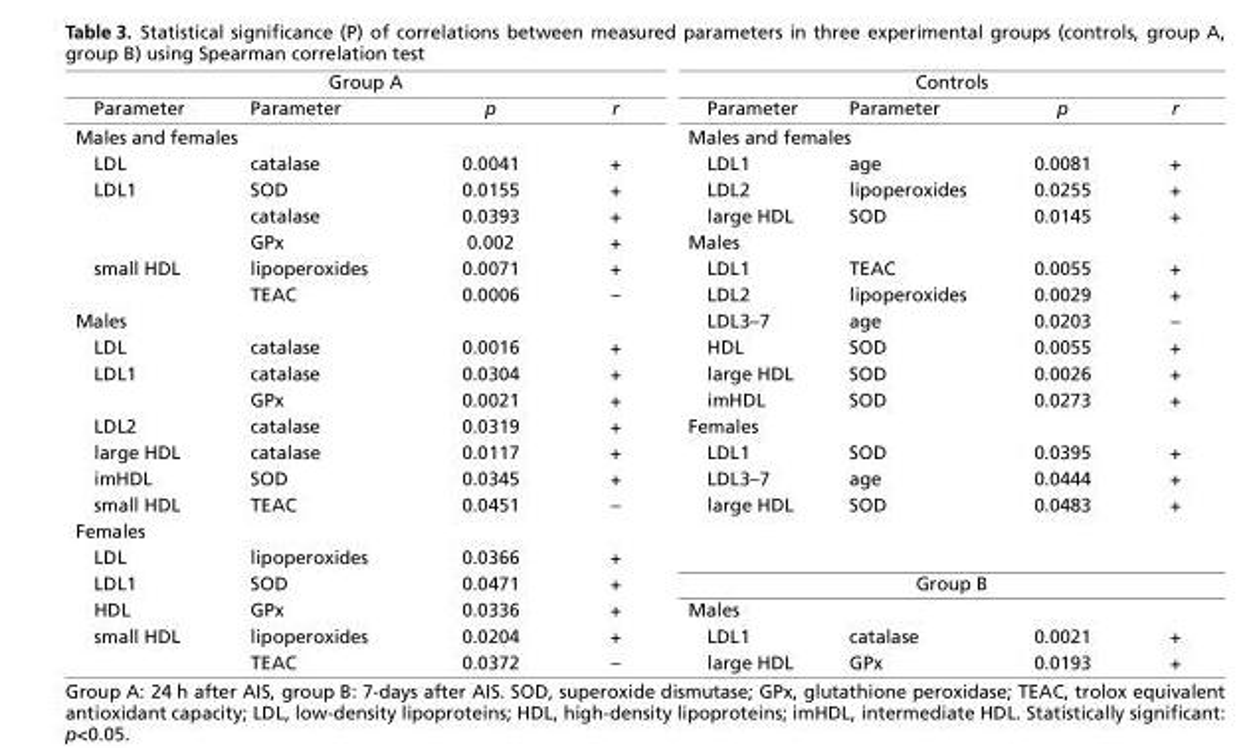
<table><tbody><tr><td colspan="4">Group A</td><td colspan="4">Controls</td></tr><tr><td>Parameter</td><td>Parameter</td><td>p</td><td>r</td><td>Parameter</td><td>Parameter</td><td>p</td><td>r</td></tr><tr><td colspan="4">Males and females</td><td colspan="4">Males and females</td></tr><tr><td>LDL</td><td>catalase</td><td>0.0041</td><td>+</td><td>LDL1</td><td>age</td><td>0.0081</td><td>+</td></tr><tr><td rowspan="3">LDL1</td><td>SOD</td><td>0.0155</td><td>+</td><td>LDL2</td><td>lipoperoxides</td><td>0.0255</td><td>+</td></tr><tr><td>catalase</td><td>0.0393</td><td>+</td><td>large HDL</td><td>SOD</td><td>0.0145</td><td>+</td></tr><tr><td>GPx</td><td>0.002</td><td>+</td><td colspan="4">Males</td></tr><tr><td rowspan="2">small HDL</td><td>lipoperoxides</td><td>0.0071</td><td>+</td><td>LDL1</td><td>TEAC</td><td>0.0055</td><td>+</td></tr><tr><td>TEAC</td><td>0.0006</td><td>–</td><td>LDL2</td><td>lipoperoxides</td><td>0.0029</td><td>+</td></tr><tr><td colspan="4">Males</td><td>LDL3–7</td><td>age</td><td>0.0203</td><td>–</td></tr><tr><td>LDL</td><td>catalase</td><td>0.0016</td><td>+</td><td>HDL</td><td>SOD</td><td>0.0055</td><td>+</td></tr><tr><td rowspan="2">LDL1</td><td>catalase</td><td>0.0304</td><td>+</td><td>large HDL</td><td>SOD</td><td>0.0026</td><td>+</td></tr><tr><td>GPx</td><td>0.0021</td><td>+</td><td>imHDL</td><td>SOD</td><td>0.0273</td><td>+</td></tr><tr><td>LDL2</td><td>catalase</td><td>0.0319</td><td>+</td><td colspan="4">Females</td></tr><tr><td>large HDL</td><td>catalase</td><td>0.0117</td><td>+</td><td>LDL1</td><td>SOD</td><td>0.0395</td><td>+</td></tr><tr><td>imHDL</td><td>SOD</td><td>0.0345</td><td>+</td><td>LDL3–7</td><td>age</td><td>0.0444</td><td>+</td></tr><tr><td>small HDL</td><td>TEAC</td><td>0.0451</td><td>–</td><td>large HDL</td><td>SOD</td><td>0.0483</td><td>+</td></tr><tr><td colspan="8">Females</td></tr><tr><td>LDL</td><td>lipoperoxides</td><td>0.0366</td><td>+</td><td colspan="4"></td></tr><tr><td>LDL1</td><td>SOD</td><td>0.0471</td><td>+</td><td colspan="4">Group B</td></tr><tr><td>HDL</td><td>GPx</td><td>0.0336</td><td>+</td><td colspan="4">Males</td></tr><tr><td rowspan="2">small HDL</td><td>lipoperoxides</td><td>0.0204</td><td>+</td><td>LDL1</td><td>catalase</td><td>0.0021</td><td>+</td></tr><tr><td>TEAC</td><td>0.0372</td><td>–</td><td>large HDL</td><td>GPx</td><td>0.0193</td><td>+</td></tr></tbody></table>